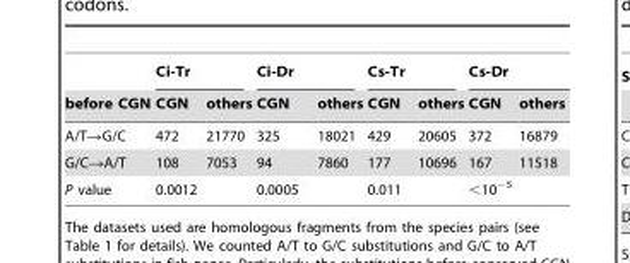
<table><thead><tr><td rowspan="2">before CGN</td><td colspan="2">Ci-Tr</td><td colspan="2">Ci-Dr</td><td colspan="2">Cs-Tr</td><td colspan="2">Cs-Dr</td></tr><tr><td>CGN</td><td>others</td><td>CGN</td><td>others</td><td>CGN</td><td>others</td><td>CGN</td><td>others</td></tr></thead><tbody><tr><td>A/T→G/C</td><td>472</td><td>21770</td><td>325</td><td>18021</td><td>429</td><td>20605</td><td>372</td><td>16879</td></tr><tr><td>G/C→A/T</td><td>108</td><td>7053</td><td>94</td><td>7860</td><td>177</td><td>10696</td><td>167</td><td>11518</td></tr><tr><td>P value</td><td colspan="2">0.0012</td><td colspan="2">0.0005</td><td colspan="2">0.011</td><td colspan="2">&lt;10<sup>−5</sup></td></tr></tbody></table>